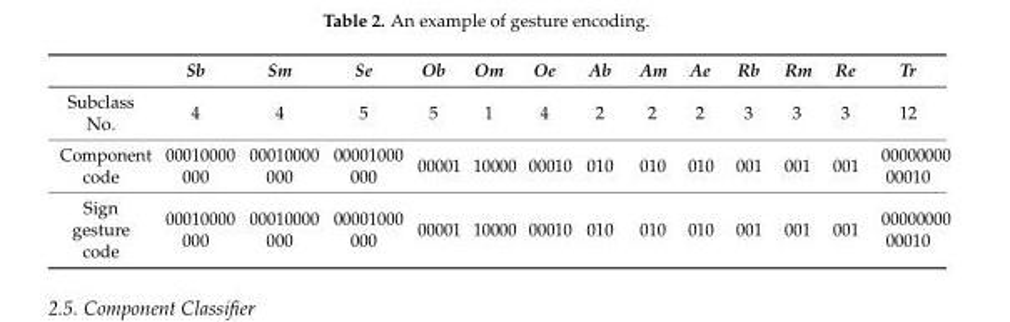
<table><thead><tr><td></td><td>Sb</td><td>Sm</td><td>Se</td><td>Ob</td><td>Om</td><td>Oe</td><td>Ab</td><td>Am</td><td>Ae</td><td>Rb</td><td>Rm</td><td>Re</td><td>Tr</td></tr></thead><tbody><tr><td>Subclass No.</td><td>4</td><td>4</td><td>5</td><td>5</td><td>1</td><td>4</td><td>2</td><td>2</td><td>2</td><td>3</td><td>3</td><td>3</td><td>12</td></tr><tr><td>Component code</td><td>00010000 000</td><td>00010000 000</td><td>00001000 000</td><td>00001</td><td>10000</td><td>00010</td><td>010</td><td>010</td><td>010</td><td>001</td><td>001</td><td>001</td><td>00000000 00010</td></tr><tr><td>Sign gesture code</td><td>00010000 000</td><td>00010000 000</td><td>00001000 000</td><td>00001</td><td>10000</td><td>00010</td><td>010</td><td>010</td><td>010</td><td>001</td><td>001</td><td>001</td><td>00000000 00010</td></tr></tbody></table>